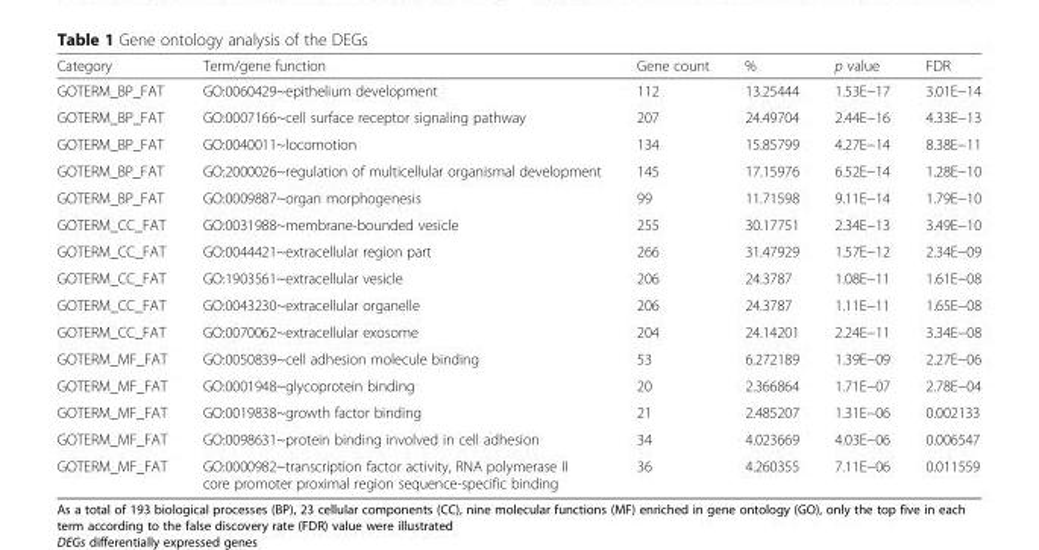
<table><thead><tr><td>Category</td><td>Term/gene function</td><td>Gene count</td><td>%</td><td>p value</td><td>FDR</td></tr></thead><tbody><tr><td>GOTERM_BP_FAT</td><td>GO:0060429~epithelium development</td><td>112</td><td>13.25444</td><td>1.53E−17</td><td>3.01E−14</td></tr><tr><td>GOTERM_BP_FAT</td><td>GO:0007166~cell surface receptor signaling pathway</td><td>207</td><td>24.49704</td><td>2.44E−16</td><td>4.33E−13</td></tr><tr><td>GOTERM_BP_FAT</td><td>GO:0040011~locomotion</td><td>134</td><td>15.85799</td><td>4.27E−14</td><td>8.38E−11</td></tr><tr><td>GOTERM_BP_FAT</td><td>GO:2000026~regulation of multicellular organismal development</td><td>145</td><td>17.15976</td><td>6.52E−14</td><td>1.28E−10</td></tr><tr><td>GOTERM_BP_FAT</td><td>GO:0009887~organ morphogenesis</td><td>99</td><td>11.71598</td><td>9.11E−14</td><td>1.79E−10</td></tr><tr><td>GOTERM_CC_FAT</td><td>GO:0031988~membrane-bounded vesicle</td><td>255</td><td>30.17751</td><td>2.34E−13</td><td>3.49E−10</td></tr><tr><td>GOTERM_CC_FAT</td><td>GO:0044421~extracellular region part</td><td>266</td><td>31.47929</td><td>1.57E−12</td><td>2.34E−09</td></tr><tr><td>GOTERM_CC_FAT</td><td>GO:1903561~extracellular vesicle</td><td>206</td><td>24.3787</td><td>1.08E−11</td><td>1.61E−08</td></tr><tr><td>GOTERM_CC_FAT</td><td>GO:0043230~extracellular organelle</td><td>206</td><td>24.3787</td><td>1.11E−11</td><td>1.65E−08</td></tr><tr><td>GOTERM_CC_FAT</td><td>GO:0070062~extracellular exosome</td><td>204</td><td>24.14201</td><td>2.24E−11</td><td>3.34E−08</td></tr><tr><td>GOTERM_MF_FAT</td><td>GO:0050839~cell adhesion molecule binding</td><td>53</td><td>6.272189</td><td>1.39E−09</td><td>2.27E−06</td></tr><tr><td>GOTERM_MF_FAT</td><td>GO:0001948~glycoprotein binding</td><td>20</td><td>2.366864</td><td>1.71E−07</td><td>2.78E−04</td></tr><tr><td>GOTERM_MF_FAT</td><td>GO:0019838~growth factor binding</td><td>21</td><td>2.485207</td><td>1.31E−06</td><td>0.002133</td></tr><tr><td>GOTERM_MF_FAT</td><td>GO:0098631~protein binding involved in cell adhesion</td><td>34</td><td>4.023669</td><td>4.03E−06</td><td>0.006547</td></tr><tr><td>GOTERM_MF_FAT</td><td>GO:0000982~transcription factor activity, RNA polymerase II core promoter proximal region sequence-specific binding</td><td>36</td><td>4.260355</td><td>7.11E−06</td><td>0.011559</td></tr></tbody></table>